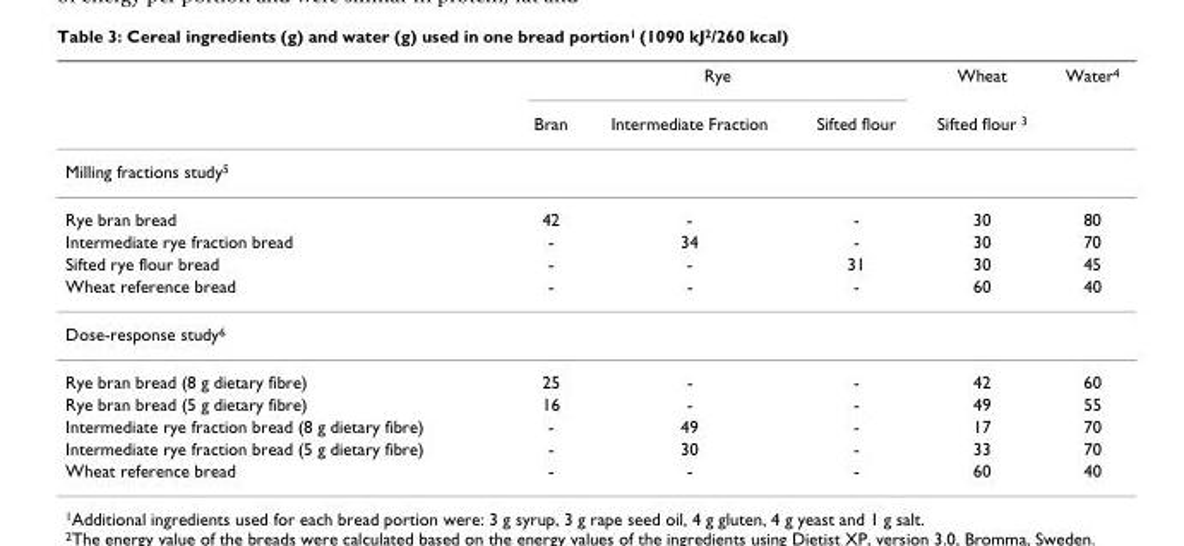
<table><thead><tr><td rowspan="2"></td><td colspan="3">Rye</td><td rowspan="2">Wheat Sifted flour 3</td><td rowspan="2">Water4</td></tr><tr><td>Bran</td><td>Intermediate Fraction</td><td>Sifted flour</td></tr></thead><tbody><tr><td colspan="6">Milling fractions study5</td></tr><tr><td>Rye bran bread</td><td>42</td><td>-</td><td>-</td><td>30</td><td>80</td></tr><tr><td>Intermediate rye fraction bread</td><td>-</td><td>34</td><td>-</td><td>30</td><td>70</td></tr><tr><td>Sifted rye flour bread</td><td>-</td><td>-</td><td>31</td><td>30</td><td>45</td></tr><tr><td>Wheat reference bread</td><td>-</td><td>-</td><td>-</td><td>60</td><td>40</td></tr><tr><td colspan="6">Dose-response study<sup>6</sup></td></tr><tr><td>Rye bran bread (8 g dietary fibre)</td><td>25</td><td>-</td><td>-</td><td>42</td><td>60</td></tr><tr><td>Rye bran bread (5 g dietary fibre)</td><td>16</td><td>-</td><td>-</td><td>49</td><td>55</td></tr><tr><td>Intermediate rye fraction bread (8 g dietary fibre)</td><td>-</td><td>49</td><td>-</td><td>17</td><td>70</td></tr><tr><td>Intermediate rye fraction bread (5 g dietary fibre)</td><td>-</td><td>30</td><td>-</td><td>33</td><td>70</td></tr><tr><td>Wheat reference bread</td><td>-</td><td>-</td><td>-</td><td>60</td><td>40</td></tr></tbody></table>